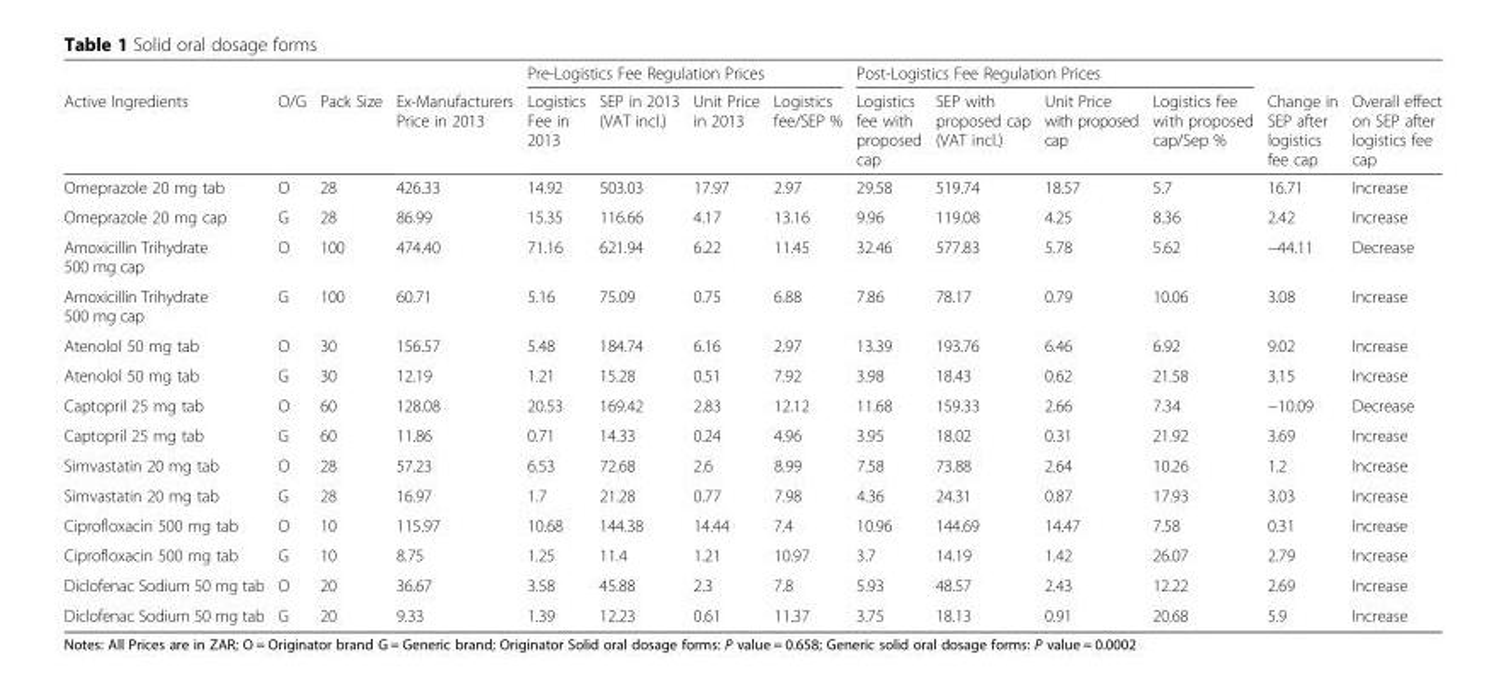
<table><thead><tr><td rowspan="2">Active Ingredients</td><td rowspan="2">O/G</td><td rowspan="2">Pack Size</td><td rowspan="2">Ex-Manufacturers Price in 2013</td><td colspan="4">Pre-Logistics Fee Regulation Prices</td><td colspan="4">Post-Logistics Fee Regulation Prices</td><td rowspan="2">Change in SEP after logistics fee cap</td><td rowspan="2">Overall effect on SEP after logistics fee cap</td></tr><tr><td>Logistics Fee in 2013</td><td>SEP in 2013 (VAT incl.)</td><td>Unit Price in 2013</td><td>Logistics fee/SEP %</td><td>Logistics fee with proposed cap</td><td>SEP with proposed cap (VAT incl.)</td><td>Unit Price with proposed cap</td><td>Logistics fee with proposed cap/Sep %</td></tr></thead><tbody><tr><td>Omeprazole 20 mg tab</td><td>O</td><td>28</td><td>426.33</td><td>14.92</td><td>503.03</td><td>17.97</td><td>2.97</td><td>29.58</td><td>519.74</td><td>18.57</td><td>5.7</td><td>16.71</td><td>Increase</td></tr><tr><td>Omeprazole 20 mg cap</td><td>G</td><td>28</td><td>86.99</td><td>15.35</td><td>116.66</td><td>4.17</td><td>13.16</td><td>9.96</td><td>119.08</td><td>4.25</td><td>8.36</td><td>2.42</td><td>Increase</td></tr><tr><td>Amoxicillin Trihydrate 500 mg cap</td><td>O</td><td>100</td><td>474.40</td><td>71.16</td><td>621.94</td><td>6.22</td><td>11.45</td><td>32.46</td><td>577.83</td><td>5.78</td><td>5.62</td><td>−44.11</td><td>Decrease</td></tr><tr><td>Amoxicillin Trihydrate 500 mg cap</td><td>G</td><td>100</td><td>60.71</td><td>5.16</td><td>75.09</td><td>0.75</td><td>6.88</td><td>7.86</td><td>78.17</td><td>0.79</td><td>10.06</td><td>3.08</td><td>Increase</td></tr><tr><td>Atenolol 50 mg tab</td><td>O</td><td>30</td><td>156.57</td><td>5.48</td><td>184.74</td><td>6.16</td><td>2.97</td><td>13.39</td><td>193.76</td><td>6.46</td><td>6.92</td><td>9.02</td><td>Increase</td></tr><tr><td>Atenolol 50 mg tab</td><td>G</td><td>30</td><td>12.19</td><td>1.21</td><td>15.28</td><td>0.51</td><td>7.92</td><td>3.98</td><td>18.43</td><td>0.62</td><td>21.58</td><td>3.15</td><td>Increase</td></tr><tr><td>Captopril 25 mg tab</td><td>O</td><td>60</td><td>128.08</td><td>20.53</td><td>169.42</td><td>2.83</td><td>12.12</td><td>11.68</td><td>159.33</td><td>2.66</td><td>7.34</td><td>−10.09</td><td>Decrease</td></tr><tr><td>Captopril 25 mg tab</td><td>G</td><td>60</td><td>11.86</td><td>0.71</td><td>14.33</td><td>0.24</td><td>4.96</td><td>3.95</td><td>18.02</td><td>0.31</td><td>21.92</td><td>3.69</td><td>Increase</td></tr><tr><td>Simvastatin 20 mg tab</td><td>O</td><td>28</td><td>57.23</td><td>6.53</td><td>72.68</td><td>2.6</td><td>8.99</td><td>7.58</td><td>73.88</td><td>2.64</td><td>10.26</td><td>1.2</td><td>Increase</td></tr><tr><td>Simvastatin 20 mg tab</td><td>G</td><td>28</td><td>16.97</td><td>1.7</td><td>21.28</td><td>0.77</td><td>7.98</td><td>4.36</td><td>24.31</td><td>0.87</td><td>17.93</td><td>3.03</td><td>Increase</td></tr><tr><td>Ciprofloxacin 500 mg tab</td><td>O</td><td>10</td><td>115.97</td><td>10.68</td><td>144.38</td><td>14.44</td><td>7.4</td><td>10.96</td><td>144.69</td><td>14.47</td><td>7.58</td><td>0.31</td><td>Increase</td></tr><tr><td>Ciprofloxacin 500 mg tab</td><td>G</td><td>10</td><td>8.75</td><td>1.25</td><td>11.4</td><td>1.21</td><td>10.97</td><td>3.7</td><td>14.19</td><td>1.42</td><td>26.07</td><td>2.79</td><td>Increase</td></tr><tr><td>Diclofenac Sodium 50 mg tab</td><td>O</td><td>20</td><td>36.67</td><td>3.58</td><td>45.88</td><td>2.3</td><td>7.8</td><td>5.93</td><td>48.57</td><td>2.43</td><td>12.22</td><td>2.69</td><td>Increase</td></tr><tr><td>Diclofenac Sodium 50 mg tab</td><td>G</td><td>20</td><td>9.33</td><td>1.39</td><td>12.23</td><td>0.61</td><td>11.37</td><td>3.75</td><td>18.13</td><td>0.91</td><td>20.68</td><td>5.9</td><td>Increase</td></tr></tbody></table>